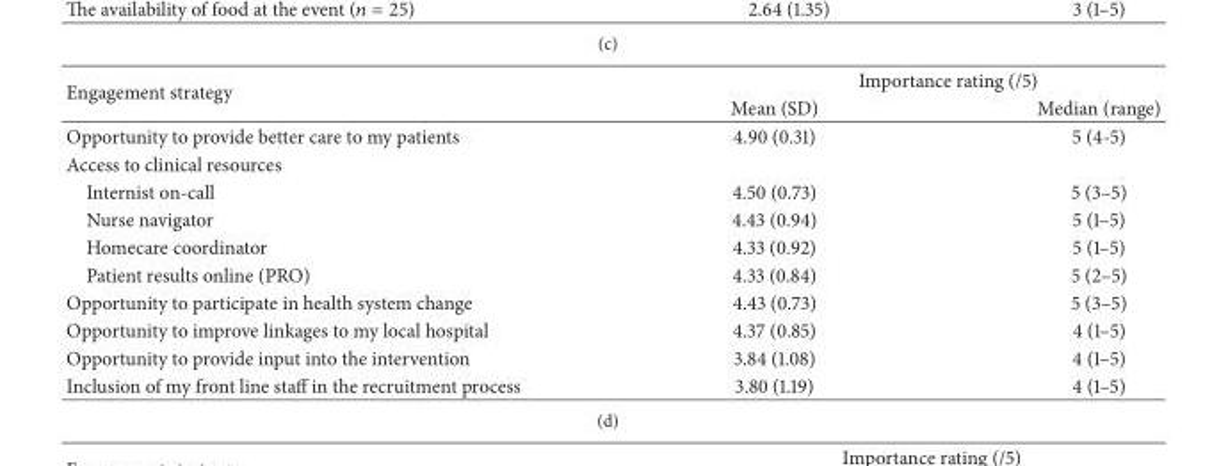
<table><thead><tr><td rowspan="2">Engagement strategy</td><td colspan="2">Importance rating (/5)</td></tr><tr><td>Mean (SD)</td><td>Median (range)</td></tr></thead><tbody><tr><td>Opportunity to provide better care to my patients</td><td>4.90 (0.31)</td><td>5 (4-5)</td></tr><tr><td colspan="3">Access to clinical resources</td></tr><tr><td>Internist on-call</td><td>4.50 (0.73)</td><td>5 (3–5)</td></tr><tr><td>Nurse navigator</td><td>4.43 (0.94)</td><td>5 (1–5)</td></tr><tr><td>Homecare coordinator</td><td>4.33 (0.92)</td><td>5 (1–5)</td></tr><tr><td>Patient results online (PRO)</td><td>4.33 (0.84)</td><td>5 (2–5)</td></tr><tr><td>Opportunity to participate in health system change</td><td>4.43 (0.73)</td><td>5 (3–5)</td></tr><tr><td>Opportunity to improve linkages to my local hospital</td><td>4.37 (0.85)</td><td>4 (1–5)</td></tr><tr><td>Opportunity to provide input into the intervention</td><td>3.84 (1.08)</td><td>4 (1–5)</td></tr><tr><td>Inclusion of my front line staff in the recruitment process</td><td>3.80 (1.19)</td><td>4 (1–5)</td></tr></tbody></table>